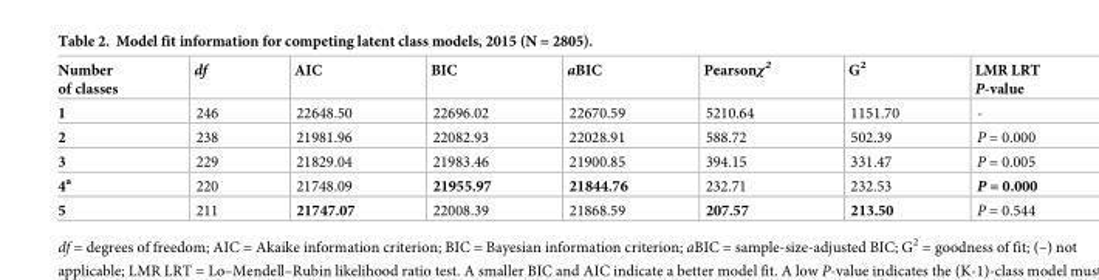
<table><thead><tr><td>Number of classes</td><td>df</td><td>AIC</td><td>BIC</td><td>aBIC</td><td>Pearsonχ<sup>2</sup></td><td>G<sup>2</sup></td><td>LMR LRT P-value</td></tr></thead><tbody><tr><td>1</td><td>246</td><td>22648.50</td><td>22696.02</td><td>22670.59</td><td>5210.64</td><td>1151.70</td><td>-</td></tr><tr><td>2</td><td>238</td><td>21981.96</td><td>22082.93</td><td>22028.91</td><td>588.72</td><td>502.39</td><td>P = 0.000</td></tr><tr><td>3</td><td>229</td><td>21829.04</td><td>21983.46</td><td>21900.85</td><td>394.15</td><td>331.47</td><td>P = 0.005</td></tr><tr><td>4<sup>a</sup></td><td>220</td><td>21748.09</td><td>21955.97</td><td>21844.76</td><td>232.71</td><td>232.53</td><td>P = 0.000</td></tr><tr><td>5</td><td>211</td><td>21747.07</td><td>22008.39</td><td>21868.59</td><td>207.57</td><td>213.50</td><td>P = 0.544</td></tr></tbody></table>